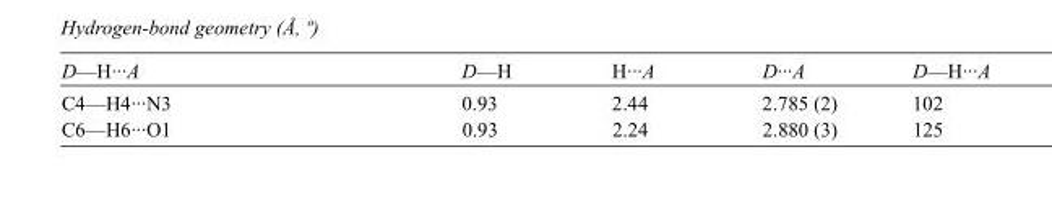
<table><tbody><tr><td>D—H···A</td><td>D—H</td><td>H···A</td><td>D···A</td><td>D—H···A</td></tr><tr><td>C4—H4···N3</td><td>0.93</td><td>2.44</td><td>2.785 (2)</td><td>102</td></tr><tr><td>C6—H6···O1</td><td>0.93</td><td>2.24</td><td>2.880 (3)</td><td>125</td></tr></tbody></table>